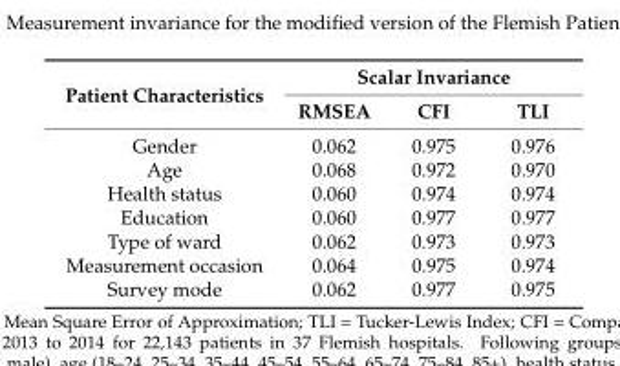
<table><thead><tr><td rowspan="2">Patient Characteristics</td><td colspan="3">Scalar Invariance</td></tr><tr><td>RMSEA</td><td>CFI</td><td>TLI</td></tr></thead><tbody><tr><td>Gender</td><td>0.062</td><td>0.975</td><td>0.976</td></tr><tr><td>Age</td><td>0.068</td><td>0.972</td><td>0.970</td></tr><tr><td>Health status</td><td>0.060</td><td>0.974</td><td>0.974</td></tr><tr><td>Education</td><td>0.060</td><td>0.977</td><td>0.977</td></tr><tr><td>Type of ward</td><td>0.062</td><td>0.973</td><td>0.973</td></tr><tr><td>Measurement occasion</td><td>0.064</td><td>0.975</td><td>0.974</td></tr><tr><td>Survey mode</td><td>0.062</td><td>0.977</td><td>0.975</td></tr></tbody></table>